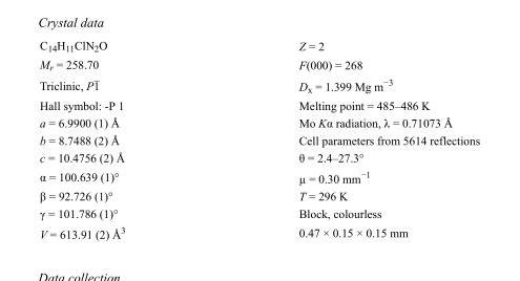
<table><tbody><tr><td>C<sub>14</sub>H<sub>11</sub>ClN<sub>2</sub>O</td><td>Z = 2</td></tr><tr><td>M<sub>r</sub> = 258.70</td><td>F(000) = 268</td></tr><tr><td>Triclinic, P1</td><td>D<sub>x</sub> = 1.399 Mg m<sup>−3</sup></td></tr><tr><td>Hall symbol: -P 1</td><td>Melting point = 485–486 K</td></tr><tr><td>a = 6.9900 (1) Å</td><td>Mo Kα radiation, λ = 0.71073 Å</td></tr><tr><td>b = 8.7488 (2) Å</td><td>Cell parameters from 5614 reflections</td></tr><tr><td>c = 10.4756 (2) Å</td><td>θ = 2.4–27.3°</td></tr><tr><td>α = 100.639 (1)°</td><td>µ = 0.30 mm<sup>−1</sup></td></tr><tr><td>β = 92.726 (1)°</td><td>T = 296 K</td></tr><tr><td>γ = 101.786 (1)°</td><td>Block, colourless</td></tr><tr><td>V = 613.91 (2) Å<sup>3</sup></td><td>0.47 × 0.15 × 0.15 mm</td></tr></tbody></table>